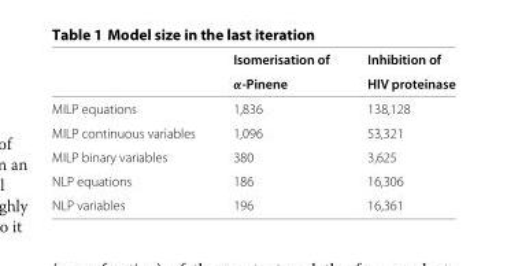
<table><thead><tr><td></td><td>Isomerisation of α-Pinene</td><td>Inhibition of HIV proteinase</td></tr></thead><tbody><tr><td>MILP equations</td><td>1,836</td><td>138,128</td></tr><tr><td>MILP continuous variables</td><td>1,096</td><td>53,321</td></tr><tr><td>MILP binary variables</td><td>380</td><td>3,625</td></tr><tr><td>NLP equations</td><td>186</td><td>16,306</td></tr><tr><td>NLP variables</td><td>196</td><td>16,361</td></tr></tbody></table>